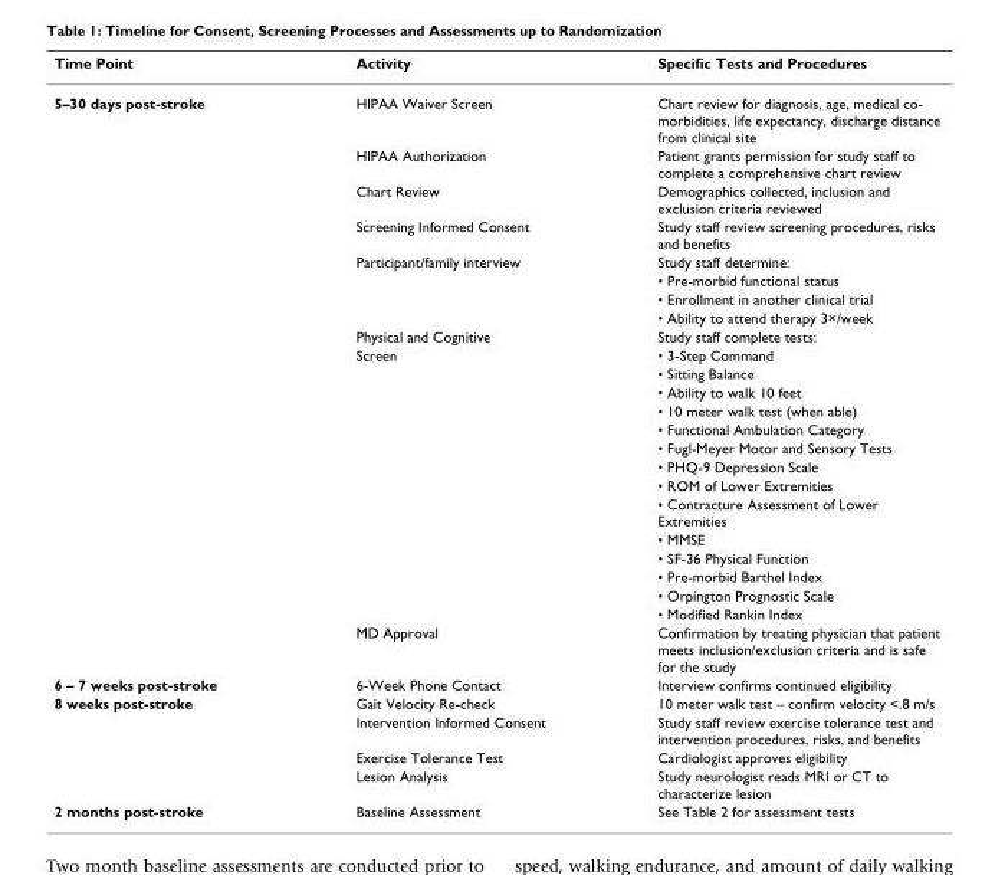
<table><thead><tr><td>Time Point</td><td>Activity</td><td>Specific Tests and Procedures</td></tr></thead><tbody><tr><td rowspan="24">5–30 days post-stroke</td><td>HIPAA Waiver Screen</td><td>Chart review for diagnosis, age, medical co- morbidities, life expectancy, discharge distance from clinical site</td></tr><tr><td>HIPAA Authorization</td><td>Patient grants permission for study staff to complete a comprehensive chart review</td></tr><tr><td>Chart Review</td><td>Demographics collected, inclusion and exclusion criteria reviewed</td></tr><tr><td>Screening Informed Consent</td><td>Study staff review screening procedures, risks and benefits</td></tr><tr><td>Participant/family interview</td><td>Study staff determine:</td></tr><tr><td></td><td>• Pre-morbid functional status</td></tr><tr><td></td><td>• Enrollment in another clinical trial</td></tr><tr><td></td><td>• Ability to attend therapy 3×/week</td></tr><tr><td>Physical and Cognitive</td><td>Study staff complete tests:</td></tr><tr><td>Screen</td><td>• 3-Step Command</td></tr><tr><td></td><td>• Sitting Balance</td></tr><tr><td></td><td>• Ability to walk 10 feet</td></tr><tr><td></td><td>• 10 meter walk test (when able)</td></tr><tr><td></td><td>• Functional Ambulation Category</td></tr><tr><td></td><td>• Fugl-Meyer Motor and Sensory Tests</td></tr><tr><td></td><td>• PHQ-9 Depression Scale</td></tr><tr><td></td><td>• ROM of Lower Extremities</td></tr><tr><td></td><td>• Contracture Assessment of Lower Extremities</td></tr><tr><td></td><td>• MMSE</td></tr><tr><td></td><td>• SF-36 Physical Function</td></tr><tr><td></td><td>• Pre-morbid Barthel Index</td></tr><tr><td></td><td>• Orpington Prognostic Scale</td></tr><tr><td></td><td>• Modified Rankin Index</td></tr><tr><td>MD Approval</td><td>Confirmation by treating physician that patient meets inclusion/exclusion criteria and is safe for the study</td></tr><tr><td>6 – 7 weeks post-stroke</td><td>6-Week Phone Contact</td><td>Interview confirms continued eligibility</td></tr><tr><td rowspan="4">8 weeks post-stroke</td><td>Gait Velocity Re-check</td><td>10 meter walk test – confirm velocity &lt;.8 m/s</td></tr><tr><td>Intervention Informed Consent</td><td>Study staff review exercise tolerance test and intervention procedures, risks, and benefits</td></tr><tr><td>Exercise Tolerance Test</td><td>Cardiologist approves eligibility</td></tr><tr><td>Lesion Analysis</td><td>Study neurologist reads MRI or CT to characterize lesion</td></tr><tr><td>2 months post-stroke</td><td>Baseline Assessment</td><td>See Table 2 for assessment tests</td></tr></tbody></table>